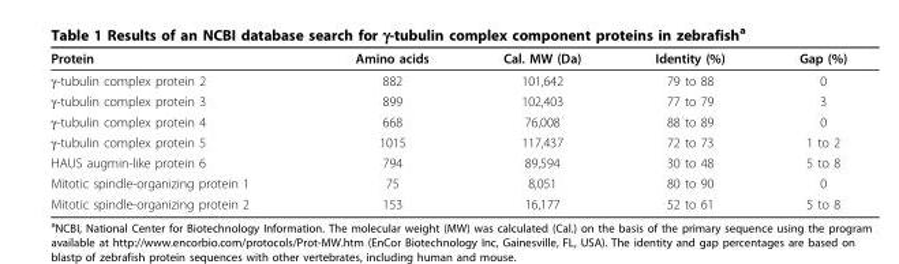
<table><thead><tr><td>Protein</td><td>Amino acids</td><td>Cal. MW (Da)</td><td>Identity (%)</td><td>Gap (%)</td></tr></thead><tbody><tr><td>γ-tubulin complex protein 2</td><td>882</td><td>101,642</td><td>79 to 88</td><td>0</td></tr><tr><td>γ-tubulin complex protein 3</td><td>899</td><td>102,403</td><td>77 to 79</td><td>3</td></tr><tr><td>γ-tubulin complex protein 4</td><td>668</td><td>76,008</td><td>88 to 89</td><td>0</td></tr><tr><td>γ-tubulin complex protein 5</td><td>1015</td><td>117,437</td><td>72 to 73</td><td>1 to 2</td></tr><tr><td>HAUS augmin-like protein 6</td><td>794</td><td>89,594</td><td>30 to 48</td><td>5 to 8</td></tr><tr><td>Mitotic spindle-organizing protein 1</td><td>75</td><td>8,051</td><td>80 to 90</td><td>0</td></tr><tr><td>Mitotic spindle-organizing protein 2</td><td>153</td><td>16,177</td><td>52 to 61</td><td>5 to 8</td></tr></tbody></table>